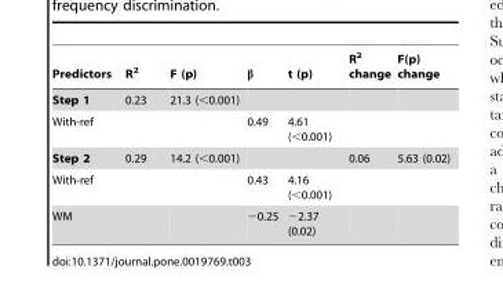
<table><thead><tr><td>Predictors</td><td>R<sup>2</sup></td><td>F (p)</td><td>β</td><td>t (p)</td><td>R<sup>2</sup> change</td><td>F(p) change</td></tr></thead><tbody><tr><td>Step 1</td><td>0.23</td><td>21.3 (&lt;0.001)</td><td></td><td></td><td></td><td></td></tr><tr><td>With-ref</td><td></td><td></td><td>0.49</td><td>4.61 (&lt;0.001)</td><td></td><td></td></tr><tr><td>Step 2</td><td>0.29</td><td>14.2 (&lt;0.001)</td><td></td><td></td><td>0.06</td><td>5.63 (0.02)</td></tr><tr><td>With-ref</td><td></td><td></td><td>0.43</td><td>4.16 (&lt;0.001)</td><td></td><td></td></tr><tr><td>WM</td><td></td><td></td><td>−0.25</td><td>−2.37 (0.02)</td><td></td><td></td></tr></tbody></table>